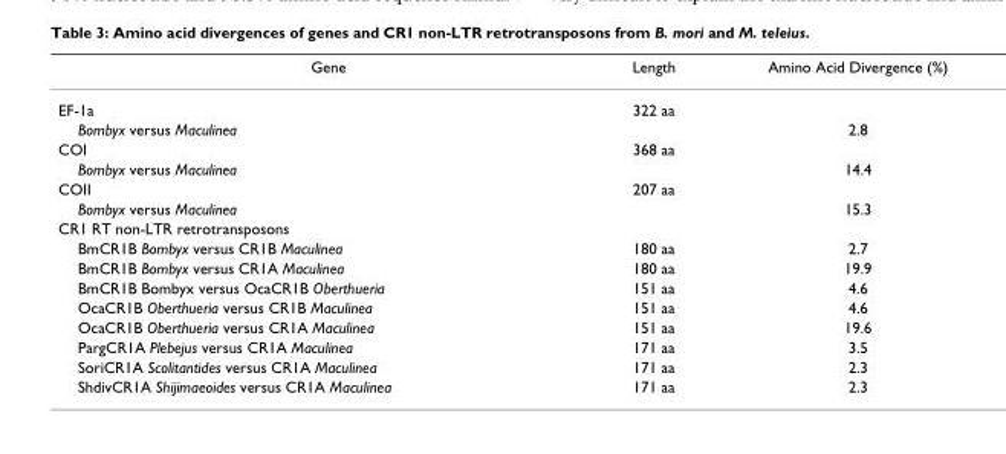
<table><thead><tr><td>Gene</td><td>Length</td><td>Amino Acid Divergence (%)</td></tr></thead><tbody><tr><td>EF-1a</td><td>322 aa</td><td></td></tr><tr><td>Bombyx versus Maculinea</td><td></td><td>2.8</td></tr><tr><td>COI</td><td>368 aa</td><td></td></tr><tr><td>Bombyx versus Maculinea</td><td></td><td>14.4</td></tr><tr><td>COII</td><td>207 aa</td><td></td></tr><tr><td>Bombyx versus Maculinea</td><td></td><td>15.3</td></tr><tr><td colspan="3">CR1 RT non-LTR retrotransposons</td></tr><tr><td>BmCR1B Bombyx versus CR1B Maculinea</td><td>180 aa</td><td>2.7</td></tr><tr><td>BmCR1B Bombyx versus CR1A Maculinea</td><td>180 aa</td><td>19.9</td></tr><tr><td>BmCR1B Bombyx versus OcaCR1B Oberthueria</td><td>151 aa</td><td>4.6</td></tr><tr><td>OcaCR1B Oberthueria versus CR1B Maculinea</td><td>151 aa</td><td>4.6</td></tr><tr><td>OcaCR1B Oberthueria versus CR1A Maculinea</td><td>151 aa</td><td>19.6</td></tr><tr><td>PargCR1A Plebejus versus CR1A Maculinea</td><td>171 aa</td><td>3.5</td></tr><tr><td>SoriCR1A Scolitantides versus CR1A Maculinea</td><td>171 aa</td><td>2.3</td></tr><tr><td>ShdivCR1A Shijimaeoides versus CR1A Maculinea</td><td>171 aa</td><td>2.3</td></tr></tbody></table>